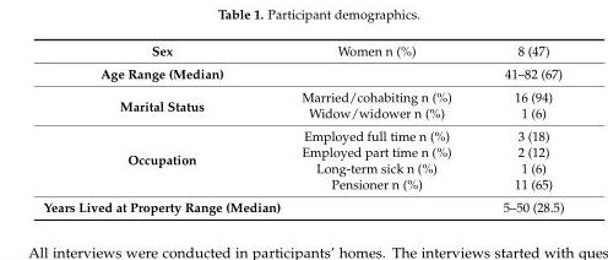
<table><tbody><tr><td>Sex</td><td>Women n (%)</td><td>8 (47)</td></tr><tr><td>Age Range (Median)</td><td></td><td>41–82 (67)</td></tr><tr><td rowspan="2">Marital Status</td><td>Married/cohabiting n (%)</td><td>16 (94)</td></tr><tr><td>Widow/widower n (%)</td><td>1 (6)</td></tr><tr><td rowspan="4">Occupation</td><td>Employed full time n (%)</td><td>3 (18)</td></tr><tr><td>Employed part time n (%)</td><td>2 (12)</td></tr><tr><td>Long-term sick n (%)</td><td>1 (6)</td></tr><tr><td>Pensioner n (%)</td><td>11 (65)</td></tr><tr><td>Years Lived at Property Range (Median)</td><td></td><td>5–50 (28.5)</td></tr></tbody></table>